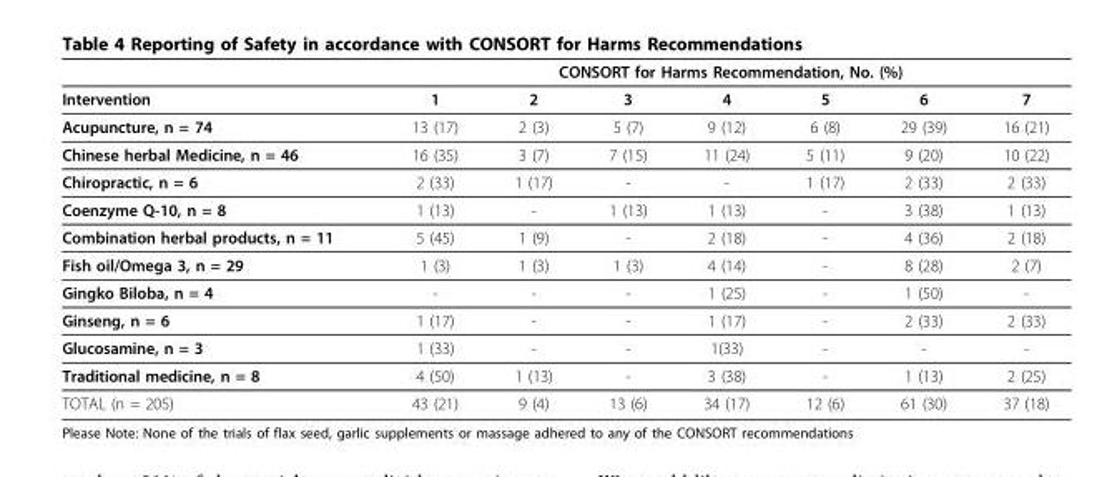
<table><thead><tr><td rowspan="2">Intervention</td><td colspan="7">CONSORT for Harms Recommendation, No. (%)</td></tr><tr><td>1</td><td>2</td><td>3</td><td>4</td><td>5</td><td>6</td><td>7</td></tr></thead><tbody><tr><td>Acupuncture, n = 74</td><td>13 (17)</td><td>2 (3)</td><td>5 (7)</td><td>9 (12)</td><td>6 (8)</td><td>29 (39)</td><td>16 (21)</td></tr><tr><td>Chinese herbal Medicine, n = 46</td><td>16 (35)</td><td>3 (7)</td><td>7 (15)</td><td>11 (24)</td><td>5 (11)</td><td>9 (20)</td><td>10 (22)</td></tr><tr><td>Chiropractic, n = 6</td><td>2 (33)</td><td>1 (17)</td><td>-</td><td>-</td><td>1 (17)</td><td>2 (33)</td><td>2 (33)</td></tr><tr><td>Coenzyme Q-10, n = 8</td><td>1 (13)</td><td>-</td><td>1 (13)</td><td>1 (13)</td><td>-</td><td>3 (38)</td><td>1 (13)</td></tr><tr><td>Combination herbal products, n = 11</td><td>5 (45)</td><td>1 (9)</td><td>-</td><td>2 (18)</td><td>-</td><td>4 (36)</td><td>2 (18)</td></tr><tr><td>Fish oil/Omega 3, n = 29</td><td>1 (3)</td><td>1 (3)</td><td>1 (3)</td><td>4 (14)</td><td>-</td><td>8 (28)</td><td>2 (7)</td></tr><tr><td>Gingko Biloba, n = 4</td><td>-</td><td>-</td><td>-</td><td>1 (25)</td><td>-</td><td>1 (50)</td><td>-</td></tr><tr><td>Ginseng, n = 6</td><td>1 (17)</td><td>-</td><td>-</td><td>1 (17)</td><td>-</td><td>2 (33)</td><td>2 (33)</td></tr><tr><td>Glucosamine, n = 3</td><td>1 (33)</td><td>-</td><td>-</td><td>1(33)</td><td>-</td><td>-</td><td>-</td></tr><tr><td>Traditional medicine, n = 8</td><td>4 (50)</td><td>1 (13)</td><td>-</td><td>3 (38)</td><td>-</td><td>1 (13)</td><td>2 (25)</td></tr><tr><td>TOTAL (n = 205)</td><td>43 (21)</td><td>9 (4)</td><td>13 (6)</td><td>34 (17)</td><td>12 (6)</td><td>61 (30)</td><td>37 (18)</td></tr></tbody></table>